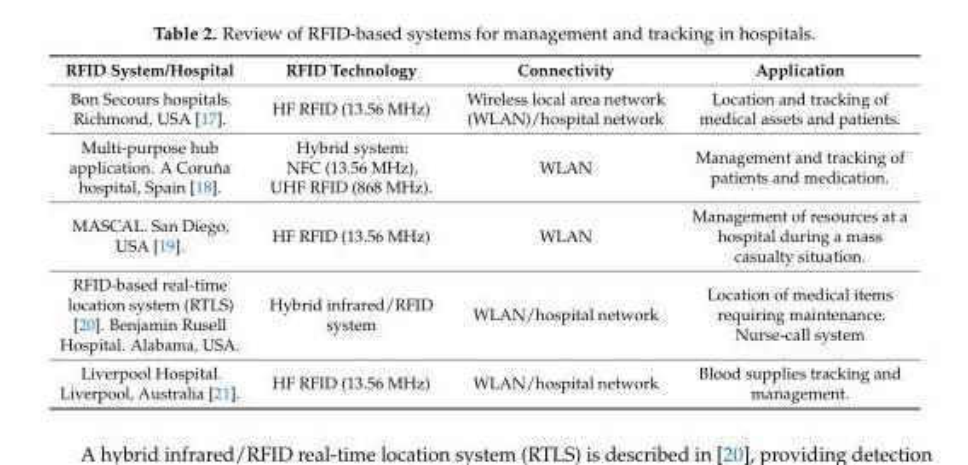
<table><thead><tr><td>RFID System/Hospital</td><td>RFID Technology</td><td>Connectivity</td><td>Application</td></tr></thead><tbody><tr><td>Bon Secours hospitals. Richmond, USA [17].</td><td>HF RFID (13.56 MHz)</td><td>Wireless local area network (WLAN)/hospital network</td><td>Location and tracking of medical assets and patients.</td></tr><tr><td>Multi-purpose hub application. A Coruña hospital, Spain [18].</td><td>Hybrid system: NFC (13.56 MHz), UHF RFID (868 MHz).</td><td>WLAN</td><td>Management and tracking of patients and medication.</td></tr><tr><td>MASCAL. San Diego, USA [19].</td><td>HF RFID (13.56 MHz)</td><td>WLAN</td><td>Management of resources at a hospital during a mass casualty situation.</td></tr><tr><td>RFID-based real-time location system (RTLS) [20]. Benjamin Rusell Hospital. Alabama, USA.</td><td>Hybrid infrared/RFID system</td><td>WLAN/hospital network</td><td>Location of medical items requiring maintenance. Nurse-call system</td></tr><tr><td>Liverpool Hospital. Liverpool, Australia [21].</td><td>HF RFID (13.56 MHz)</td><td>WLAN/hospital network</td><td>Blood supplies tracking and management.</td></tr></tbody></table>